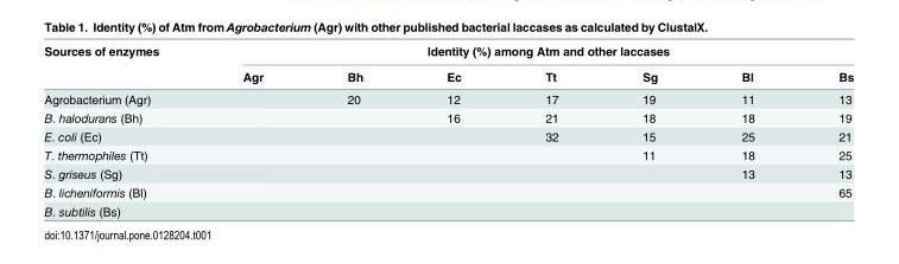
<table><thead><tr><td rowspan="2">Sources of enzymes</td><td colspan="7">Identity (%) among Atm and other laccases</td></tr><tr><td>Agr</td><td>Bh</td><td>Ec</td><td>Tt</td><td>Sg</td><td>Bl</td><td>Bs</td></tr></thead><tbody><tr><td>Agrobacterium (Agr)</td><td></td><td>20</td><td>12</td><td>17</td><td>19</td><td>11</td><td>13</td></tr><tr><td>B. halodurans (Bh)</td><td></td><td></td><td>16</td><td>21</td><td>18</td><td>18</td><td>19</td></tr><tr><td>E. coli (Ec)</td><td></td><td></td><td></td><td>32</td><td>15</td><td>25</td><td>21</td></tr><tr><td>T. thermophiles (Tt)</td><td></td><td></td><td></td><td></td><td>11</td><td>18</td><td>25</td></tr><tr><td>S. griseus (Sg)</td><td></td><td></td><td></td><td></td><td></td><td>13</td><td>13</td></tr><tr><td>B. licheniformis (Bl)</td><td></td><td></td><td></td><td></td><td></td><td></td><td>65</td></tr><tr><td>B. subtilis (Bs)</td><td></td><td></td><td></td><td></td><td></td><td></td><td></td></tr></tbody></table>